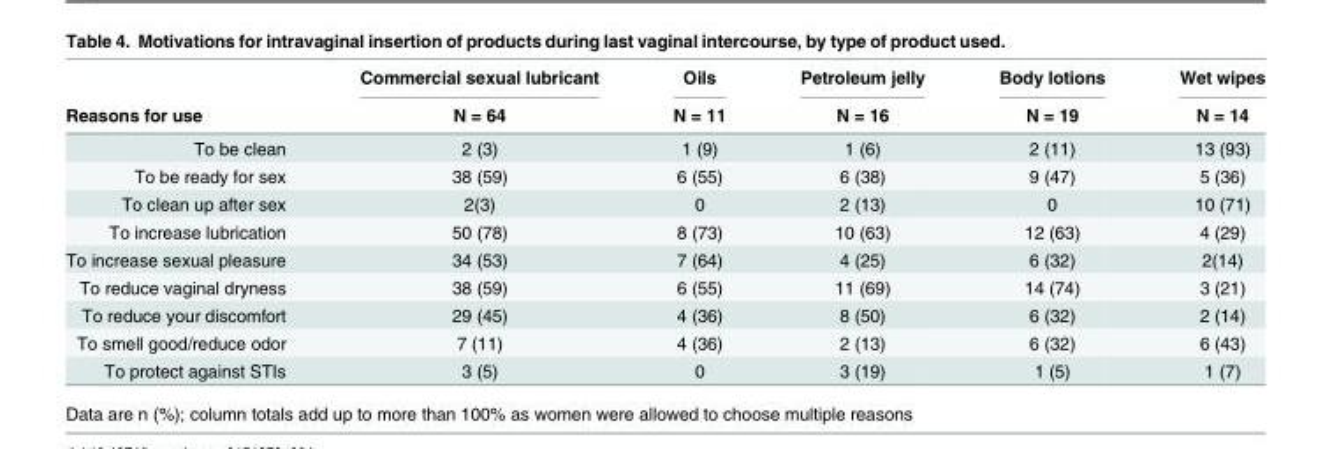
<table><thead><tr><td rowspan="2">Reasons for use</td><td rowspan="2">Commercial sexual lubricant N = 64</td><td rowspan="2">Oils N = 11</td><td rowspan="2">Petroleum jelly N = 16</td><td rowspan="2">Body lotions N = 19</td><td rowspan="2">Wet wipes N = 14</td></tr><tr></tr></thead><tbody><tr><td>To be clean</td><td>2 (3)</td><td>1 (9)</td><td>1 (6)</td><td>2 (11)</td><td>13 (93)</td></tr><tr><td>To be ready for sex</td><td>38 (59)</td><td>6 (55)</td><td>6 (38)</td><td>9 (47)</td><td>5 (36)</td></tr><tr><td>To clean up after sex</td><td>2(3)</td><td>0</td><td>2 (13)</td><td>0</td><td>10 (71)</td></tr><tr><td>To increase lubrication</td><td>50 (78)</td><td>8 (73)</td><td>10 (63)</td><td>12 (63)</td><td>4 (29)</td></tr><tr><td>To increase sexual pleasure</td><td>34 (53)</td><td>7 (64)</td><td>4 (25)</td><td>6 (32)</td><td>2(14)</td></tr><tr><td>To reduce vaginal dryness</td><td>38 (59)</td><td>6 (55)</td><td>11 (69)</td><td>14 (74)</td><td>3 (21)</td></tr><tr><td>To reduce your discomfort</td><td>29 (45)</td><td>4 (36)</td><td>8 (50)</td><td>6 (32)</td><td>2 (14)</td></tr><tr><td>To smell good/reduce odor</td><td>7 (11)</td><td>4 (36)</td><td>2 (13)</td><td>6 (32)</td><td>6 (43)</td></tr><tr><td>To protect against STIs</td><td>3 (5)</td><td>0</td><td>3 (19)</td><td>1 (5)</td><td>1 (7)</td></tr></tbody></table>